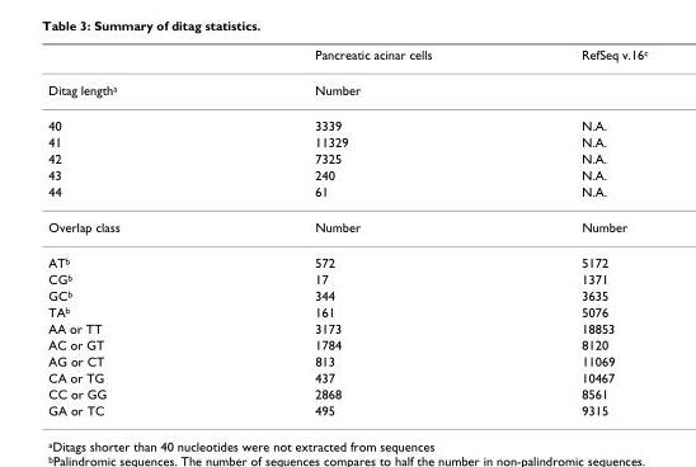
<table><thead><tr><td></td><td>Pancreatic acinar cells</td><td>RefSeq v.16<sup>c</sup></td></tr></thead><tbody><tr><td>Ditag length<sup>a</sup></td><td>Number</td><td></td></tr><tr><td>40</td><td>3339</td><td>N.A.</td></tr><tr><td>41</td><td>11329</td><td>N.A.</td></tr><tr><td>42</td><td>7325</td><td>N.A.</td></tr><tr><td>43</td><td>240</td><td>N.A.</td></tr><tr><td>44</td><td>61</td><td>N.A.</td></tr><tr><td>Overlap class</td><td>Number</td><td>Number</td></tr><tr><td>AT<sup>b</sup></td><td>572</td><td>5172</td></tr><tr><td>CG<sup>b</sup></td><td>17</td><td>1371</td></tr><tr><td>GC<sup>b</sup></td><td>344</td><td>3635</td></tr><tr><td>TA<sup>b</sup></td><td>161</td><td>5076</td></tr><tr><td>AA or TT</td><td>3173</td><td>18853</td></tr><tr><td>AC or GT</td><td>1784</td><td>8120</td></tr><tr><td>AG or CT</td><td>813</td><td>11069</td></tr><tr><td>CA or TG</td><td>437</td><td>10467</td></tr><tr><td>CC or GG</td><td>2868</td><td>8561</td></tr><tr><td>GA or TC</td><td>495</td><td>9315</td></tr></tbody></table>